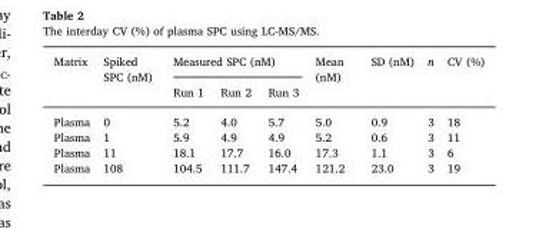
<table><thead><tr><td rowspan="2">Matrix</td><td rowspan="2">Spiked SPC (nM)</td><td colspan="3">Measured SPC (nM)</td><td rowspan="2">Mean (nM)</td><td rowspan="2">SD (nM)</td><td rowspan="2">n</td><td rowspan="2">CV (%)</td></tr><tr><td>Run 1</td><td>Run 2</td><td>Run 3</td></tr></thead><tbody><tr><td>Plasma</td><td>0</td><td>5.2</td><td>4.0</td><td>5.7</td><td>5.0</td><td>0.9</td><td>3</td><td>18</td></tr><tr><td>Plasma</td><td>1</td><td>5.9</td><td>4.9</td><td>4.9</td><td>5.2</td><td>0.6</td><td>3</td><td>11</td></tr><tr><td>Plasma</td><td>11</td><td>18.1</td><td>17.7</td><td>16.0</td><td>17.3</td><td>1.1</td><td>3</td><td>6</td></tr><tr><td>Plasma</td><td>108</td><td>104.5</td><td>111.7</td><td>147.4</td><td>121.2</td><td>23.0</td><td>3</td><td>19</td></tr></tbody></table>